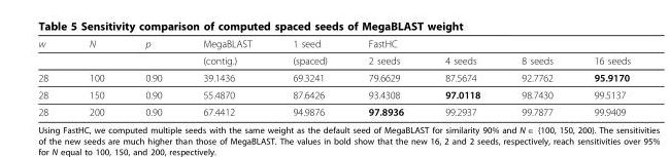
<table><thead><tr><td>w</td><td>N</td><td>p</td><td>MegaBLAST</td><td>1 seed</td><td>FastHC</td><td></td><td></td><td></td></tr></thead><tbody><tr><td></td><td></td><td></td><td>(contig.)</td><td>(spaced)</td><td>2 seeds</td><td>4 seeds</td><td>8 seeds</td><td>16 seeds</td></tr><tr><td>28</td><td>100</td><td>0.90</td><td>39.1436</td><td>69.3241</td><td>79.6629</td><td>87.5674</td><td>92.7762</td><td>95.9170</td></tr><tr><td>28</td><td>150</td><td>0.90</td><td>55.4870</td><td>87.6426</td><td>93.4308</td><td>97.0118</td><td>98.7430</td><td>99.5137</td></tr><tr><td>28</td><td>200</td><td>0.90</td><td>67.4412</td><td>94.9876</td><td>97.8936</td><td>99.2937</td><td>99.7877</td><td>99.9409</td></tr></tbody></table>